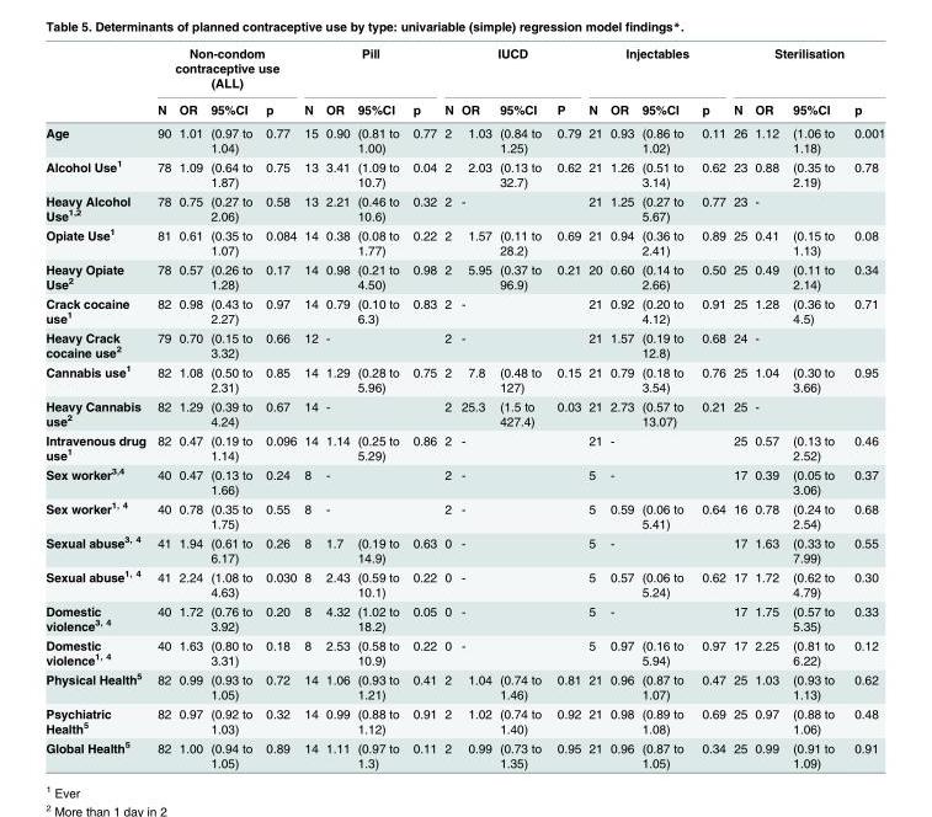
<table><thead><tr><td rowspan="2"></td><td colspan="4">Non-condom contraceptive use (ALL)</td><td colspan="4">Pill</td><td colspan="4">IUCD</td><td colspan="4">Injectables</td><td colspan="4">Sterilisation</td></tr><tr><td>N</td><td>OR</td><td>95%CI</td><td>p</td><td>N</td><td>OR</td><td>95%CI</td><td>p</td><td>N</td><td>OR</td><td>95%CI</td><td>P</td><td>N</td><td>OR</td><td>95%CI</td><td>p</td><td>N</td><td>OR</td><td>95%CI</td><td>p</td></tr></thead><tbody><tr><td>Age</td><td>90</td><td>1.01</td><td>(0.97 to 1.04)</td><td>0.77</td><td>15</td><td>0.90</td><td>(0.81 to 1.00)</td><td>0.77</td><td>2</td><td>1.03</td><td>(0.84 to 1.25)</td><td>0.79</td><td>21</td><td>0.93</td><td>(0.86 to 1.02)</td><td>0.11</td><td>26</td><td>1.12</td><td>(1.06 to 1.18)</td><td>0.001</td></tr><tr><td>Alcohol Use<sup>1</sup></td><td>78</td><td>1.09</td><td>(0.64 to 1.87)</td><td>0.75</td><td>13</td><td>3.41</td><td>(1.09 to 10.7)</td><td>0.04</td><td>2</td><td>2.03</td><td>(0.13 to 32.7)</td><td>0.62</td><td>21</td><td>1.26</td><td>(0.51 to 3.14)</td><td>0.62</td><td>23</td><td>0.88</td><td>(0.35 to 2.19)</td><td>0.78</td></tr><tr><td>Heavy Alcohol Use<sup>1,2</sup></td><td>78</td><td>0.75</td><td>(0.27 to 2.06)</td><td>0.58</td><td>13</td><td>2.21</td><td>(0.46 to 10.6)</td><td>0.32</td><td>2</td><td>-</td><td></td><td></td><td>21</td><td>1.25</td><td>(0.27 to 5.67)</td><td>0.77</td><td>23</td><td>-</td><td></td><td></td></tr><tr><td>Opiate Use<sup>1</sup></td><td>81</td><td>0.61</td><td>(0.35 to 1.07)</td><td>0.084</td><td>14</td><td>0.38</td><td>(0.08 to 1.77)</td><td>0.22</td><td>2</td><td>1.57</td><td>(0.11 to 28.2)</td><td>0.69</td><td>21</td><td>0.94</td><td>(0.36 to 2.41)</td><td>0.89</td><td>25</td><td>0.41</td><td>(0.15 to 1.13)</td><td>0.08</td></tr><tr><td>Heavy Opiate Use<sup>2</sup></td><td>78</td><td>0.57</td><td>(0.26 to 1.28)</td><td>0.17</td><td>14</td><td>0.98</td><td>(0.21 to 4.50)</td><td>0.98</td><td>2</td><td>5.95</td><td>(0.37 to 96.9)</td><td>0.21</td><td>20</td><td>0.60</td><td>(0.14 to 2.66)</td><td>0.50</td><td>25</td><td>0.49</td><td>(0.11 to 2.14)</td><td>0.34</td></tr><tr><td>Crack cocaine use<sup>1</sup></td><td>82</td><td>0.98</td><td>(0.43 to 2.27)</td><td>0.97</td><td>14</td><td>0.79</td><td>(0.10 to 6.3)</td><td>0.83</td><td>2</td><td>-</td><td></td><td></td><td>21</td><td>0.92</td><td>(0.20 to 4.12)</td><td>0.91</td><td>25</td><td>1.28</td><td>(0.36 to 4.5)</td><td>0.71</td></tr><tr><td>Heavy Crack cocaine use<sup>2</sup></td><td>79</td><td>0.70</td><td>(0.15 to 3.32)</td><td>0.66</td><td>12</td><td>-</td><td></td><td></td><td>2</td><td>-</td><td></td><td></td><td>21</td><td>1.57</td><td>(0.19 to 12.8)</td><td>0.68</td><td>24</td><td>-</td><td></td><td></td></tr><tr><td>Cannabis use<sup>1</sup></td><td>82</td><td>1.08</td><td>(0.50 to 2.31)</td><td>0.85</td><td>14</td><td>1.29</td><td>(0.28 to 5.96)</td><td>0.75</td><td>2</td><td>7.8</td><td>(0.48 to 127)</td><td>0.15</td><td>21</td><td>0.79</td><td>(0.18 to 3.54)</td><td>0.76</td><td>25</td><td>1.04</td><td>(0.30 to 3.66)</td><td>0.95</td></tr><tr><td>Heavy Cannabis use<sup>2</sup></td><td>82</td><td>1.29</td><td>(0.39 to 4.24)</td><td>0.67</td><td>14</td><td>-</td><td></td><td></td><td>2</td><td>25.3</td><td>(1.5 to 427.4)</td><td>0.03</td><td>21</td><td>2.73</td><td>(0.57 to 13.07)</td><td>0.21</td><td>25</td><td>-</td><td></td><td></td></tr><tr><td>Intravenous drug use<sup>1</sup></td><td>82</td><td>0.47</td><td>(0.19 to 1.14)</td><td>0.096</td><td>14</td><td>1.14</td><td>(0.25 to 5.29)</td><td>0.86</td><td>2</td><td>-</td><td></td><td></td><td>21</td><td>-</td><td></td><td></td><td>25</td><td>0.57</td><td>(0.13 to 2.52)</td><td>0.46</td></tr><tr><td>Sex worker<sup>3,4</sup></td><td>40</td><td>0.47</td><td>(0.13 to 1.66)</td><td>0.24</td><td>8</td><td>-</td><td></td><td></td><td>2</td><td>-</td><td></td><td></td><td>5</td><td>-</td><td></td><td></td><td>17</td><td>0.39</td><td>(0.05 to 3.06)</td><td>0.37</td></tr><tr><td>Sex worker<sup>1, 4</sup></td><td>40</td><td>0.78</td><td>(0.35 to 1.75)</td><td>0.55</td><td>8</td><td>-</td><td></td><td></td><td>2</td><td>-</td><td></td><td></td><td>5</td><td>0.59</td><td>(0.06 to 5.41)</td><td>0.64</td><td>16</td><td>0.78</td><td>(0.24 to 2.54)</td><td>0.68</td></tr><tr><td>Sexual abuse<sup>3, 4</sup></td><td>41</td><td>1.94</td><td>(0.61 to 6.17)</td><td>0.26</td><td>8</td><td>1.7</td><td>(0.19 to 14.9)</td><td>0.63</td><td>0</td><td>-</td><td></td><td></td><td>5</td><td>-</td><td></td><td></td><td>17</td><td>1.63</td><td>(0.33 to 7.99)</td><td>0.55</td></tr><tr><td>Sexual abuse<sup>1, 4</sup></td><td>41</td><td>2.24</td><td>(1.08 to 4.63)</td><td>0.030</td><td>8</td><td>2.43</td><td>(0.59 to 10.1)</td><td>0.22</td><td>0</td><td>-</td><td></td><td></td><td>5</td><td>0.57</td><td>(0.06 to 5.24)</td><td>0.62</td><td>17</td><td>1.72</td><td>(0.62 to 4.79)</td><td>0.30</td></tr><tr><td>Domestic violence<sup>3, 4</sup></td><td>40</td><td>1.72</td><td>(0.76 to 3.92)</td><td>0.20</td><td>8</td><td>4.32</td><td>(1.02 to 18.2)</td><td>0.05</td><td>0</td><td>-</td><td></td><td></td><td>5</td><td>-</td><td></td><td></td><td>17</td><td>1.75</td><td>(0.57 to 5.35)</td><td>0.33</td></tr><tr><td>Domestic violence<sup>1, 4</sup></td><td>40</td><td>1.63</td><td>(0.80 to 3.31)</td><td>0.18</td><td>8</td><td>2.53</td><td>(0.58 to 10.9)</td><td>0.22</td><td>0</td><td>-</td><td></td><td></td><td>5</td><td>0.97</td><td>(0.16 to 5.94)</td><td>0.97</td><td>17</td><td>2.25</td><td>(0.81 to 6.22)</td><td>0.12</td></tr><tr><td>Physical Health<sup>5</sup></td><td>82</td><td>0.99</td><td>(0.93 to 1.05)</td><td>0.72</td><td>14</td><td>1.06</td><td>(0.93 to 1.21)</td><td>0.41</td><td>2</td><td>1.04</td><td>(0.74 to 1.46)</td><td>0.81</td><td>21</td><td>0.96</td><td>(0.87 to 1.07)</td><td>0.47</td><td>25</td><td>1.03</td><td>(0.93 to 1.13)</td><td>0.62</td></tr><tr><td>Psychiatric Health<sup>5</sup></td><td>82</td><td>0.97</td><td>(0.92 to 1.03)</td><td>0.32</td><td>14</td><td>0.99</td><td>(0.88 to 1.12)</td><td>0.91</td><td>2</td><td>1.02</td><td>(0.74 to 1.40)</td><td>0.92</td><td>21</td><td>0.98</td><td>(0.89 to 1.08)</td><td>0.69</td><td>25</td><td>0.97</td><td>(0.88 to 1.06)</td><td>0.48</td></tr><tr><td>Global Health<sup>5</sup></td><td>82</td><td>1.00</td><td>(0.94 to 1.05)</td><td>0.89</td><td>14</td><td>1.11</td><td>(0.97 to 1.3)</td><td>0.11</td><td>2</td><td>0.99</td><td>(0.73 to 1.35)</td><td>0.95</td><td>21</td><td>0.96</td><td>(0.87 to 1.05)</td><td>0.34</td><td>25</td><td>0.99</td><td>(0.91 to 1.09)</td><td>0.91</td></tr></tbody></table>